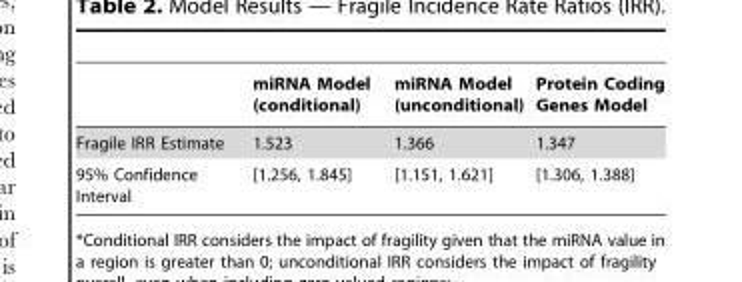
<table><thead><tr><td></td><td>miRNA Model (conditional)</td><td>miRNA Model (unconditional)</td><td>Protein Coding Genes Model</td></tr></thead><tbody><tr><td>Fragile IRR Estimate</td><td>1.523</td><td>1.366</td><td>1.347</td></tr><tr><td>95% Confidence Interval</td><td>[1.256, 1.845]</td><td>[1.151, 1.621]</td><td>[1.306, 1.388]</td></tr></tbody></table>